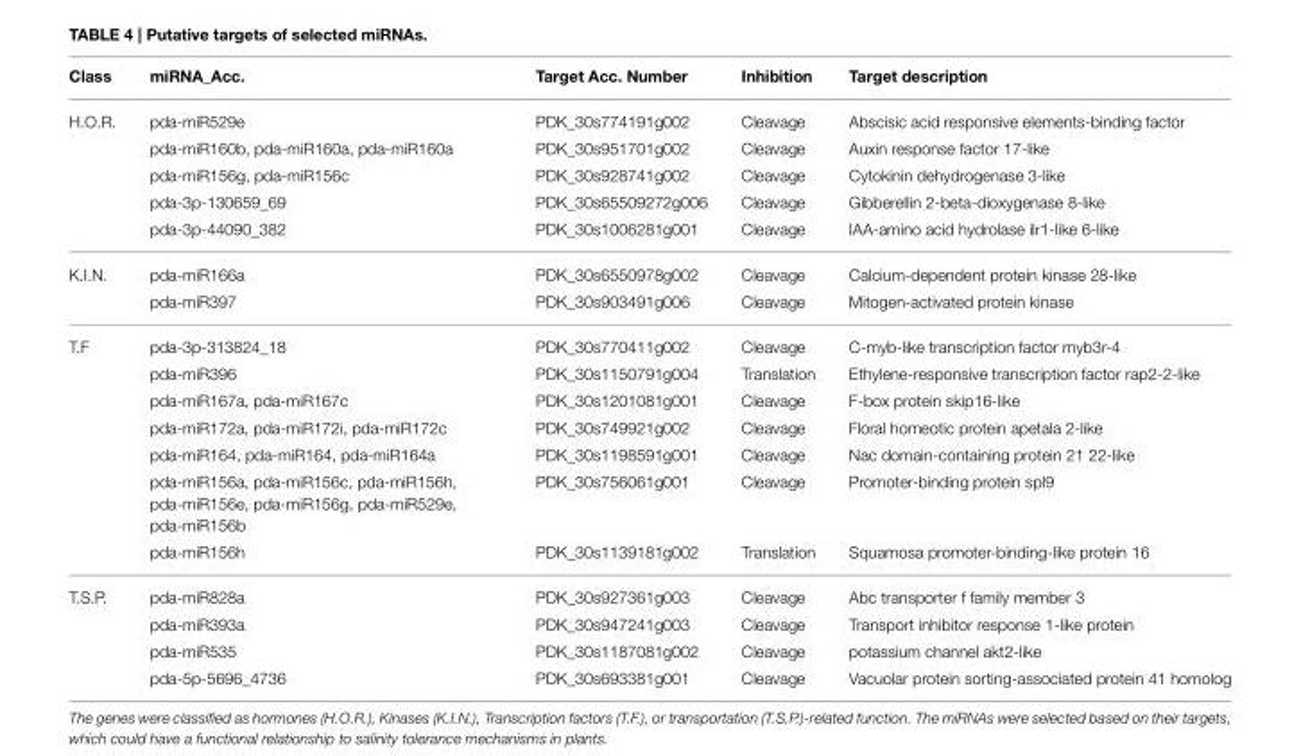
<table><thead><tr><td>Class</td><td>miRNA_Acc.</td><td>Target Acc. Number</td><td>Inhibition</td><td>Target description</td></tr></thead><tbody><tr><td rowspan="5">H.O.R.</td><td>pda-miR529e</td><td>PDK_30s774191g002</td><td>Cleavage</td><td>Abscisic acid responsive elements-binding factor</td></tr><tr><td>pda-miR160b, pda-miR160a, pda-miR160a</td><td>PDK_30s951701g002</td><td>Cleavage</td><td>Auxin response factor 17-like</td></tr><tr><td>pda-miR156g, pda-miR156c</td><td>PDK_30s928741g002</td><td>Cleavage</td><td>Cytokinin dehydrogenase 3-like</td></tr><tr><td>pda-3p-130659_69</td><td>PDK_30s65509272g006</td><td>Cleavage</td><td>Gibberellin 2-beta-dioxygenase 8-like</td></tr><tr><td>pda-3p-44090_382</td><td>PDK_30s1006281g001</td><td>Cleavage</td><td>IAA-amino acid hydrolase ilr1-like 6-like</td></tr><tr><td rowspan="2">K.I.N.</td><td>pda-miR166a</td><td>PDK_30s6550978g002</td><td>Cleavage</td><td>Calcium-dependent protein kinase 28-like</td></tr><tr><td>pda-miR397</td><td>PDK_30s903491g006</td><td>Cleavage</td><td>Mitogen-activated protein kinase</td></tr><tr><td rowspan="7">T.F</td><td>pda-3p-313824_18</td><td>PDK_30s770411g002</td><td>Cleavage</td><td>C-myb-like transcription factor myb3r-4</td></tr><tr><td>pda-miR396</td><td>PDK_30s1150791g004</td><td>Translation</td><td>Ethylene-responsive transcription factor rap2-2-like</td></tr><tr><td>pda-miR167a, pda-miR167c</td><td>PDK_30s1201081g001</td><td>Cleavage</td><td>F-box protein skip16-like</td></tr><tr><td>pda-miR172a, pda-miR172i, pda-miR172c</td><td>PDK_30s749921g002</td><td>Cleavage</td><td>Floral homeotic protein apetala 2-like</td></tr><tr><td>pda-miR164, pda-miR164, pda-miR164a</td><td>PDK_30s1198591g001</td><td>Cleavage</td><td>Nac domain-containing protein 21 22-like</td></tr><tr><td>pda-miR156a, pda-miR156c, pda-miR156h, pda-miR156e, pda-miR156g, pda-miR529e, pda-miR156b</td><td>PDK_30s756061g001</td><td>Cleavage</td><td>Promoter-binding protein spl9</td></tr><tr><td>pda-miR156h</td><td>PDK_30s1139181g002</td><td>Translation</td><td>Squamosa promoter-binding-like protein 16</td></tr><tr><td rowspan="4">T.S.P.</td><td>pda-miR828a</td><td>PDK_30s927361g003</td><td>Cleavage</td><td>Abc transporter f family member 3</td></tr><tr><td>pda-miR393a</td><td>PDK_30s947241g003</td><td>Cleavage</td><td>Transport inhibitor response 1-like protein</td></tr><tr><td>pda-miR535</td><td>PDK_30s1187081g002</td><td>Cleavage</td><td>potassium channel akt2-like</td></tr><tr><td>pda-5p-5696_4736</td><td>PDK_30s693381g001</td><td>Cleavage</td><td>Vacuolar protein sorting-associated protein 41 homolog</td></tr></tbody></table>